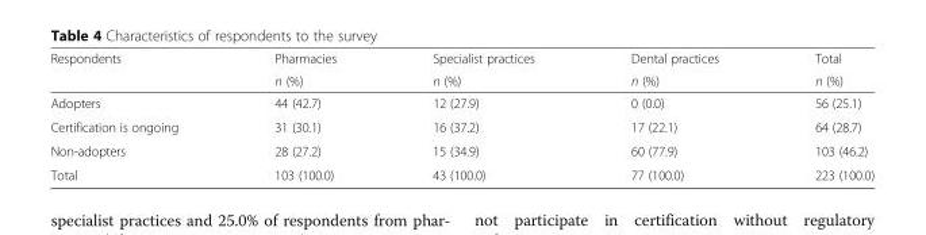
<table><thead><tr><td rowspan="2">Respondents</td><td rowspan="2">Pharmacies n (%)</td><td rowspan="2">Specialist practices n (%)</td><td rowspan="2">Dental practices n (%)</td><td rowspan="2">Total n (%)</td></tr><tr></tr></thead><tbody><tr><td>Adopters</td><td>44 (42.7)</td><td>12 (27.9)</td><td>0 (0.0)</td><td>56 (25.1)</td></tr><tr><td>Certification is ongoing</td><td>31 (30.1)</td><td>16 (37.2)</td><td>17 (22.1)</td><td>64 (28.7)</td></tr><tr><td>Non-adopters</td><td>28 (27.2)</td><td>15 (34.9)</td><td>60 (77.9)</td><td>103 (46.2)</td></tr><tr><td>Total</td><td>103 (100.0)</td><td>43 (100.0)</td><td>77 (100.0)</td><td>223 (100.0)</td></tr></tbody></table>